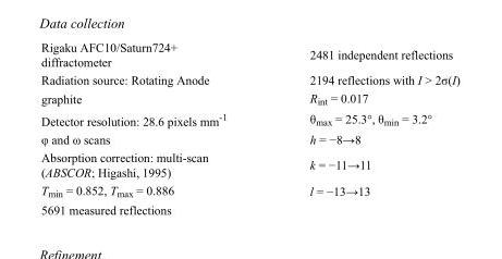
<table><tbody><tr><td>Rigaku AFC10/Saturn724+ diffractometer</td><td>2481 independent reflections</td></tr><tr><td>Radiation source: Rotating Anode</td><td>2194 reflections with I &gt; 2σ(I)</td></tr><tr><td>graphite</td><td>R<sub>int</sub> = 0.017</td></tr><tr><td>Detector resolution: 28.6 pixels mm<sup>-1</sup></td><td>θ<sub>max</sub> = 25.3°, θ<sub>min</sub> = 3.2°</td></tr><tr><td>φ and ω scans</td><td>h = −8→8</td></tr><tr><td>Absorption correction: multi-scan (ABSCOR; Higashi, 1995)</td><td>k = −11→11</td></tr><tr><td>T<sub>min</sub> = 0.852, T<sub>max</sub> = 0.886</td><td>l = −13→13</td></tr><tr><td>5691 measured reflections</td><td></td></tr></tbody></table>